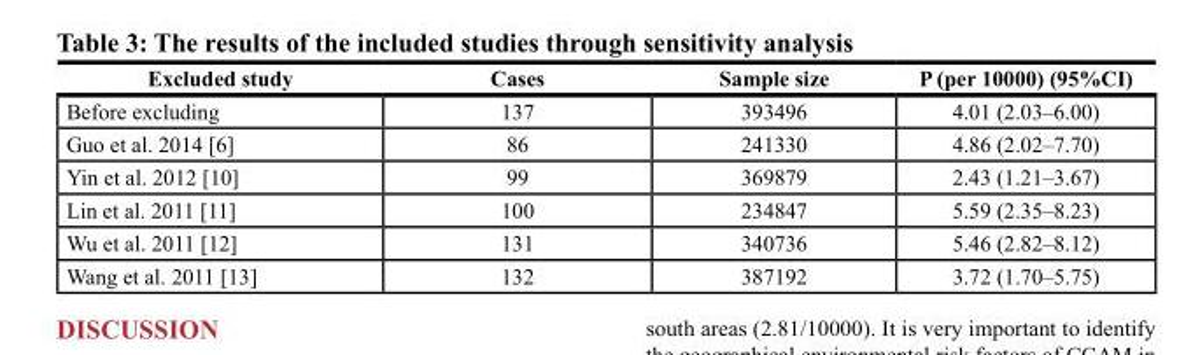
<table><thead><tr><td>Excluded study</td><td>Cases</td><td>Sample size</td><td>P (per 10000) (95%CI)</td></tr></thead><tbody><tr><td>Before excluding</td><td>137</td><td>393496</td><td>4.01 (2.03–6.00)</td></tr><tr><td>Guo et al. 2014 [6]</td><td>86</td><td>241330</td><td>4.86 (2.02–7.70)</td></tr><tr><td>Yin et al. 2012 [10]</td><td>99</td><td>369879</td><td>2.43 (1.21–3.67)</td></tr><tr><td>Lin et al. 2011 [11]</td><td>100</td><td>234847</td><td>5.59 (2.35–8.23)</td></tr><tr><td>Wu et al. 2011 [12]</td><td>131</td><td>340736</td><td>5.46 (2.82–8.12)</td></tr><tr><td>Wang et al. 2011 [13]</td><td>132</td><td>387192</td><td>3.72 (1.70–5.75)</td></tr></tbody></table>